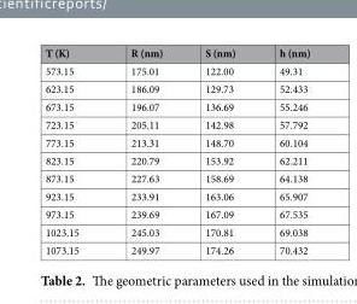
<table><thead><tr><td>T (K)</td><td>R (nm)</td><td>S (nm)</td><td>h (nm)</td></tr></thead><tbody><tr><td>573.15</td><td>175.01</td><td>122.00</td><td>49.31</td></tr><tr><td>623.15</td><td>186.09</td><td>129.73</td><td>52.433</td></tr><tr><td>673.15</td><td>196.07</td><td>136.69</td><td>55.246</td></tr><tr><td>723.15</td><td>205.11</td><td>142.98</td><td>57.792</td></tr><tr><td>773.15</td><td>213.31</td><td>148.70</td><td>60.104</td></tr><tr><td>823.15</td><td>220.79</td><td>153.92</td><td>62.211</td></tr><tr><td>873.15</td><td>227.63</td><td>158.69</td><td>64.138</td></tr><tr><td>923.15</td><td>233.91</td><td>163.06</td><td>65.907</td></tr><tr><td>973.15</td><td>239.69</td><td>167.09</td><td>67.535</td></tr><tr><td>1023.15</td><td>245.03</td><td>170.81</td><td>69.038</td></tr><tr><td>1073.15</td><td>249.97</td><td>174.26</td><td>70.432</td></tr></tbody></table>